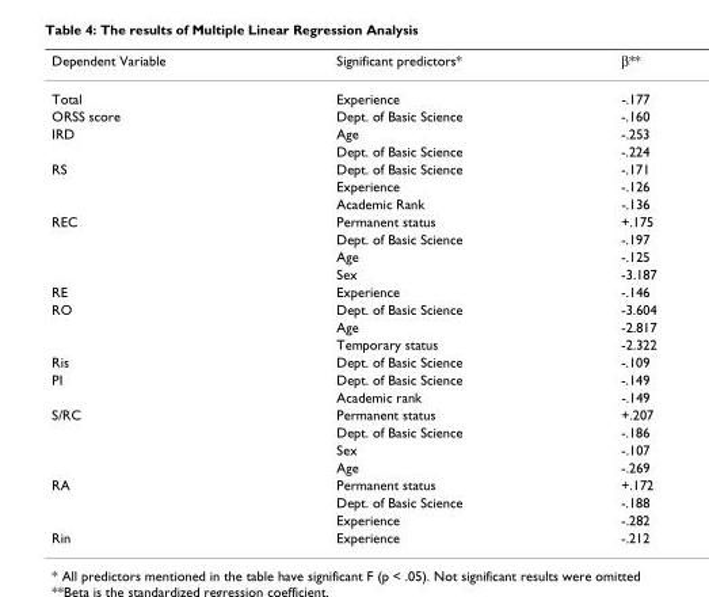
<table><thead><tr><td>Dependent Variable</td><td>Significant predictors*</td><td>β**</td></tr></thead><tbody><tr><td>Total</td><td>Experience</td><td>-.177</td></tr><tr><td>ORSS score</td><td>Dept. of Basic Science</td><td>-.160</td></tr><tr><td rowspan="2">IRD</td><td>Age</td><td>-.253</td></tr><tr><td>Dept. of Basic Science</td><td>-.224</td></tr><tr><td rowspan="3">RS</td><td>Dept. of Basic Science</td><td>-.171</td></tr><tr><td>Experience</td><td>-.126</td></tr><tr><td>Academic Rank</td><td>-.136</td></tr><tr><td rowspan="4">REC</td><td>Permanent status</td><td>+.175</td></tr><tr><td>Dept. of Basic Science</td><td>-.197</td></tr><tr><td>Age</td><td>-.125</td></tr><tr><td>Sex</td><td>-3.187</td></tr><tr><td>RE</td><td>Experience</td><td>-.146</td></tr><tr><td rowspan="3">RO</td><td>Dept. of Basic Science</td><td>-3.604</td></tr><tr><td>Age</td><td>-2.817</td></tr><tr><td>Temporary status</td><td>-2.322</td></tr><tr><td>Ris</td><td>Dept. of Basic Science</td><td>-.109</td></tr><tr><td rowspan="2">PI</td><td>Dept. of Basic Science</td><td>-.149</td></tr><tr><td>Academic rank</td><td>-.149</td></tr><tr><td rowspan="4">S/RC</td><td>Permanent status</td><td>+.207</td></tr><tr><td>Dept. of Basic Science</td><td>-.186</td></tr><tr><td>Sex</td><td>-.107</td></tr><tr><td>Age</td><td>-.269</td></tr><tr><td rowspan="3">RA</td><td>Permanent status</td><td>+.172</td></tr><tr><td>Dept. of Basic Science</td><td>-.188</td></tr><tr><td>Experience</td><td>-.282</td></tr><tr><td>Rin</td><td>Experience</td><td>-.212</td></tr></tbody></table>